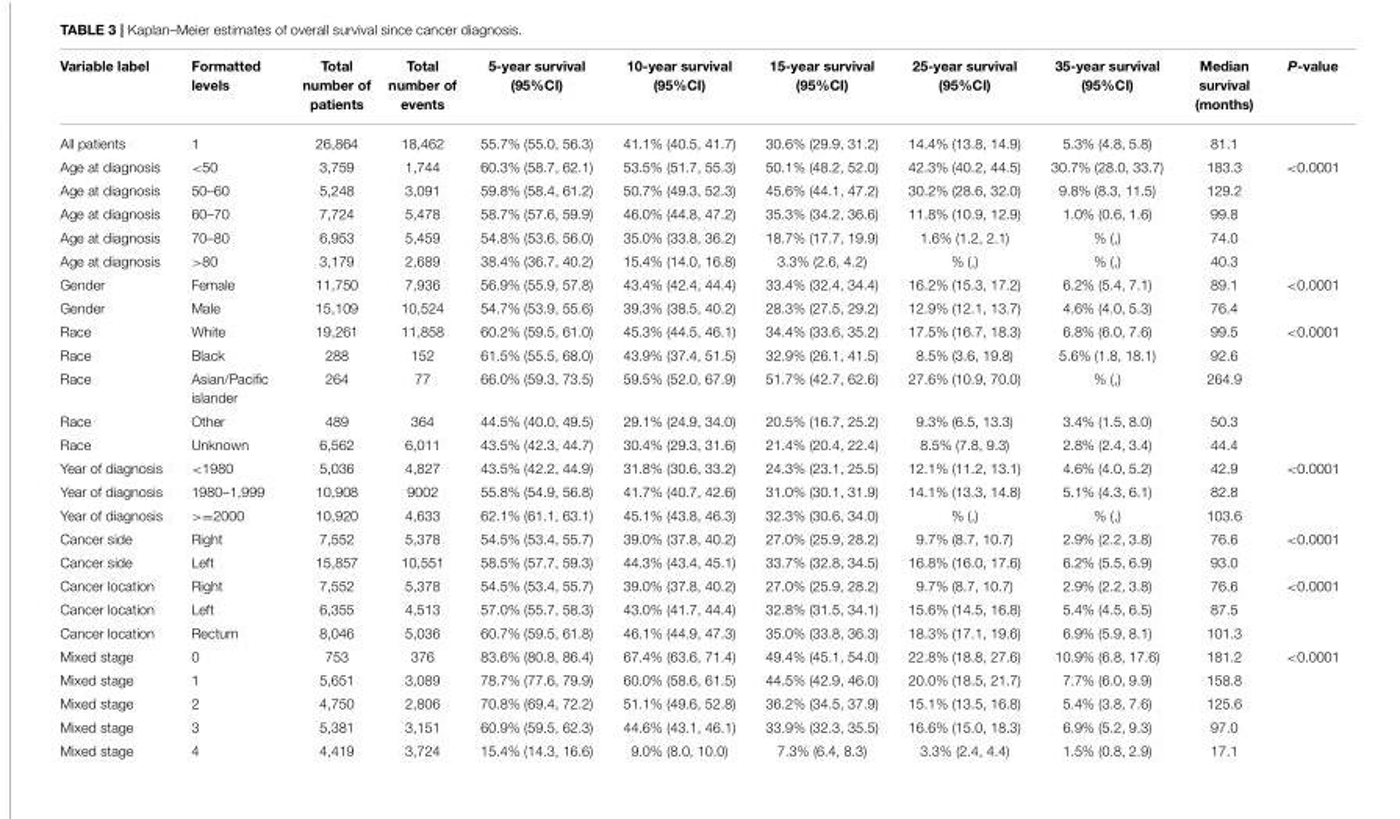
<table><thead><tr><td>Variable label</td><td>Formatted levels</td><td>Total number of patients</td><td>Total number of events</td><td>5-year survival (95%CI)</td><td>10-year survival (95%CI)</td><td>15-year survival (95%CI)</td><td>25-year survival (95%CI)</td><td>35-year survival (95%CI)</td><td>Median survival (months)</td><td>P-value</td></tr></thead><tbody><tr><td>All patients</td><td>1</td><td>26,864</td><td>18,462</td><td>55.7% (55.0, 56.3)</td><td>41.1% (40.5, 41.7)</td><td>30.6% (29.9, 31.2)</td><td>14.4% (13.8, 14.9)</td><td>5.3% (4.8, 5.8)</td><td>81.1</td><td></td></tr><tr><td>Age at diagnosis</td><td>&lt;50</td><td>3,759</td><td>1,744</td><td>60.3% (58.7, 62.1)</td><td>53.5% (51.7, 55.3)</td><td>50.1% (48.2, 52.0)</td><td>42.3% (40.2, 44.5)</td><td>30.7% (28.0, 33.7)</td><td>183.3</td><td>&lt;0.0001</td></tr><tr><td>Age at diagnosis</td><td>50–60</td><td>5,248</td><td>3,091</td><td>59.8% (58.4, 61.2)</td><td>50.7% (49.3, 52.3)</td><td>45.6% (44.1, 47.2)</td><td>30.2% (28.6, 32.0)</td><td>9.8% (8.3, 11.5)</td><td>129.2</td><td></td></tr><tr><td>Age at diagnosis</td><td>60–70</td><td>7,724</td><td>5,478</td><td>58.7% (57.6, 59.9)</td><td>46.0% (44.8, 47.2)</td><td>35.3% (34.2, 36.6)</td><td>11.8% (10.9, 12.9)</td><td>1.0% (0.6, 1.6)</td><td>99.8</td><td></td></tr><tr><td>Age at diagnosis</td><td>70–80</td><td>6,953</td><td>5,459</td><td>54.8% (53.6, 56.0)</td><td>35.0% (33.8, 36.2)</td><td>18.7% (17.7, 19.9)</td><td>1.6% (1.2, 2.1)</td><td>% (,)</td><td>74.0</td><td></td></tr><tr><td>Age at diagnosis</td><td>&gt;80</td><td>3,179</td><td>2,689</td><td>38.4% (36.7, 40.2)</td><td>15.4% (14.0, 16.8)</td><td>3.3% (2.6, 4.2)</td><td>% (,)</td><td>% (,)</td><td>40.3</td><td></td></tr><tr><td>Gender</td><td>Female</td><td>11,750</td><td>7,936</td><td>56.9% (55.9, 57.8)</td><td>43.4% (42.4, 44.4)</td><td>33.4% (32.4, 34.4)</td><td>16.2% (15.3, 17.2)</td><td>6.2% (5.4, 7.1)</td><td>89.1</td><td>&lt;0.0001</td></tr><tr><td>Gender</td><td>Male</td><td>15,109</td><td>10,524</td><td>54.7% (53.9, 55.6)</td><td>39.3% (38.5, 40.2)</td><td>28.3% (27.5, 29.2)</td><td>12.9% (12.1, 13.7)</td><td>4.6% (4.0, 5.3)</td><td>76.4</td><td></td></tr><tr><td>Race</td><td>White</td><td>19,261</td><td>11,858</td><td>60.2% (59.5, 61.0)</td><td>45.3% (44.5, 46.1)</td><td>34.4% (33.6, 35.2)</td><td>17.5% (16.7, 18.3)</td><td>6.8% (6.0, 7.6)</td><td>99.5</td><td>&lt;0.0001</td></tr><tr><td>Race</td><td>Black</td><td>288</td><td>152</td><td>61.5% (55.5, 68.0)</td><td>43.9% (37.4, 51.5)</td><td>32.9% (26.1, 41.5)</td><td>8.5% (3.6, 19.8)</td><td>5.6% (1.8, 18.1)</td><td>92.6</td><td></td></tr><tr><td>Race</td><td>Asian/Pacific islander</td><td>264</td><td>77</td><td>66.0% (59.3, 73.5)</td><td>59.5% (52.0, 67.9)</td><td>51.7% (42.7, 62.6)</td><td>27.6% (10.9, 70.0)</td><td>% (,)</td><td>264.9</td><td></td></tr><tr><td>Race</td><td>Other</td><td>489</td><td>364</td><td>44.5% (40.0, 49.5)</td><td>29.1% (24.9, 34.0)</td><td>20.5% (16.7, 25.2)</td><td>9.3% (6.5, 13.3)</td><td>3.4% (1.5, 8.0)</td><td>50.3</td><td></td></tr><tr><td>Race</td><td>Unknown</td><td>6,562</td><td>6,011</td><td>43.5% (42.3, 44.7)</td><td>30.4% (29.3, 31.6)</td><td>21.4% (20.4, 22.4)</td><td>8.5% (7.8, 9.3)</td><td>2.8% (2.4, 3.4)</td><td>44.4</td><td></td></tr><tr><td>Year of diagnosis</td><td>&lt;1980</td><td>5,036</td><td>4,827</td><td>43.5% (42.2, 44.9)</td><td>31.8% (30.6, 33.2)</td><td>24.3% (23.1, 25.5)</td><td>12.1% (11.2, 13.1)</td><td>4.6% (4.0, 5.2)</td><td>42.9</td><td>&lt;0.0001</td></tr><tr><td>Year of diagnosis</td><td>1980–1,999</td><td>10,908</td><td>9002</td><td>55.8% (54.9, 56.8)</td><td>41.7% (40.7, 42.6)</td><td>31.0% (30.1, 31.9)</td><td>14.1% (13.3, 14.8)</td><td>5.1% (4.3, 6.1)</td><td>82.8</td><td></td></tr><tr><td>Year of diagnosis</td><td>&gt;=2000</td><td>10,920</td><td>4,633</td><td>62.1% (61.1, 63.1)</td><td>45.1% (43.8, 46.3)</td><td>32.3% (30.6, 34.0)</td><td>% (,)</td><td>% (,)</td><td>103.6</td><td></td></tr><tr><td>Cancer side</td><td>Right</td><td>7,552</td><td>5,378</td><td>54.5% (53.4, 55.7)</td><td>39.0% (37.8, 40.2)</td><td>27.0% (25.9, 28.2)</td><td>9.7% (8.7, 10.7)</td><td>2.9% (2.2, 3.8)</td><td>76.6</td><td>&lt;0.0001</td></tr><tr><td>Cancer side</td><td>Left</td><td>15,857</td><td>10,551</td><td>58.5% (57.7, 59.3)</td><td>44.3% (43.4, 45.1)</td><td>33.7% (32.8, 34.5)</td><td>16.8% (16.0, 17.6)</td><td>6.2% (5.5, 6.9)</td><td>93.0</td><td></td></tr><tr><td>Cancer location</td><td>Right</td><td>7,552</td><td>5,378</td><td>54.5% (53.4, 55.7)</td><td>39.0% (37.8, 40.2)</td><td>27.0% (25.9, 28.2)</td><td>9.7% (8.7, 10.7)</td><td>2.9% (2.2, 3.8)</td><td>76.6</td><td>&lt;0.0001</td></tr><tr><td>Cancer location</td><td>Left</td><td>6,355</td><td>4,513</td><td>57.0% (55.7, 58.3)</td><td>43.0% (41.7, 44.4)</td><td>32.8% (31.5, 34.1)</td><td>15.6% (14.5, 16.8)</td><td>5.4% (4.5, 6.5)</td><td>87.5</td><td></td></tr><tr><td>Cancer location</td><td>Rectum</td><td>8,046</td><td>5,036</td><td>60.7% (59.5, 61.8)</td><td>46.1% (44.9, 47.3)</td><td>35.0% (33.8, 36.3)</td><td>18.3% (17.1, 19.6)</td><td>6.9% (5.9, 8.1)</td><td>101.3</td><td></td></tr><tr><td>Mixed stage</td><td>0</td><td>753</td><td>376</td><td>83.6% (80.8, 86.4)</td><td>67.4% (63.6, 71.4)</td><td>49.4% (45.1, 54.0)</td><td>22.8% (18.8, 27.6)</td><td>10.9% (6.8, 17.6)</td><td>181.2</td><td>&lt;0.0001</td></tr><tr><td>Mixed stage</td><td>1</td><td>5,651</td><td>3,089</td><td>78.7% (77.6, 79.9)</td><td>60.0% (58.6, 61.5)</td><td>44.5% (42.9, 46.0)</td><td>20.0% (18.5, 21.7)</td><td>7.7% (6.0, 9.9)</td><td>158.8</td><td></td></tr><tr><td>Mixed stage</td><td>2</td><td>4,750</td><td>2,806</td><td>70.8% (69.4, 72.2)</td><td>51.1% (49.6, 52.8)</td><td>36.2% (34.5, 37.9)</td><td>15.1% (13.5, 16.8)</td><td>5.4% (3.8, 7.6)</td><td>125.6</td><td></td></tr><tr><td>Mixed stage</td><td>3</td><td>5,381</td><td>3,151</td><td>60.9% (59.5, 62.3)</td><td>44.6% (43.1, 46.1)</td><td>33.9% (32.3, 35.5)</td><td>16.6% (15.0, 18.3)</td><td>6.9% (5.2, 9.3)</td><td>97.0</td><td></td></tr><tr><td>Mixed stage</td><td>4</td><td>4,419</td><td>3,724</td><td>15.4% (14.3, 16.6)</td><td>9.0% (8.0, 10.0)</td><td>7.3% (6.4, 8.3)</td><td>3.3% (2.4, 4.4)</td><td>1.5% (0.8, 2.9)</td><td>17.1</td><td></td></tr></tbody></table>